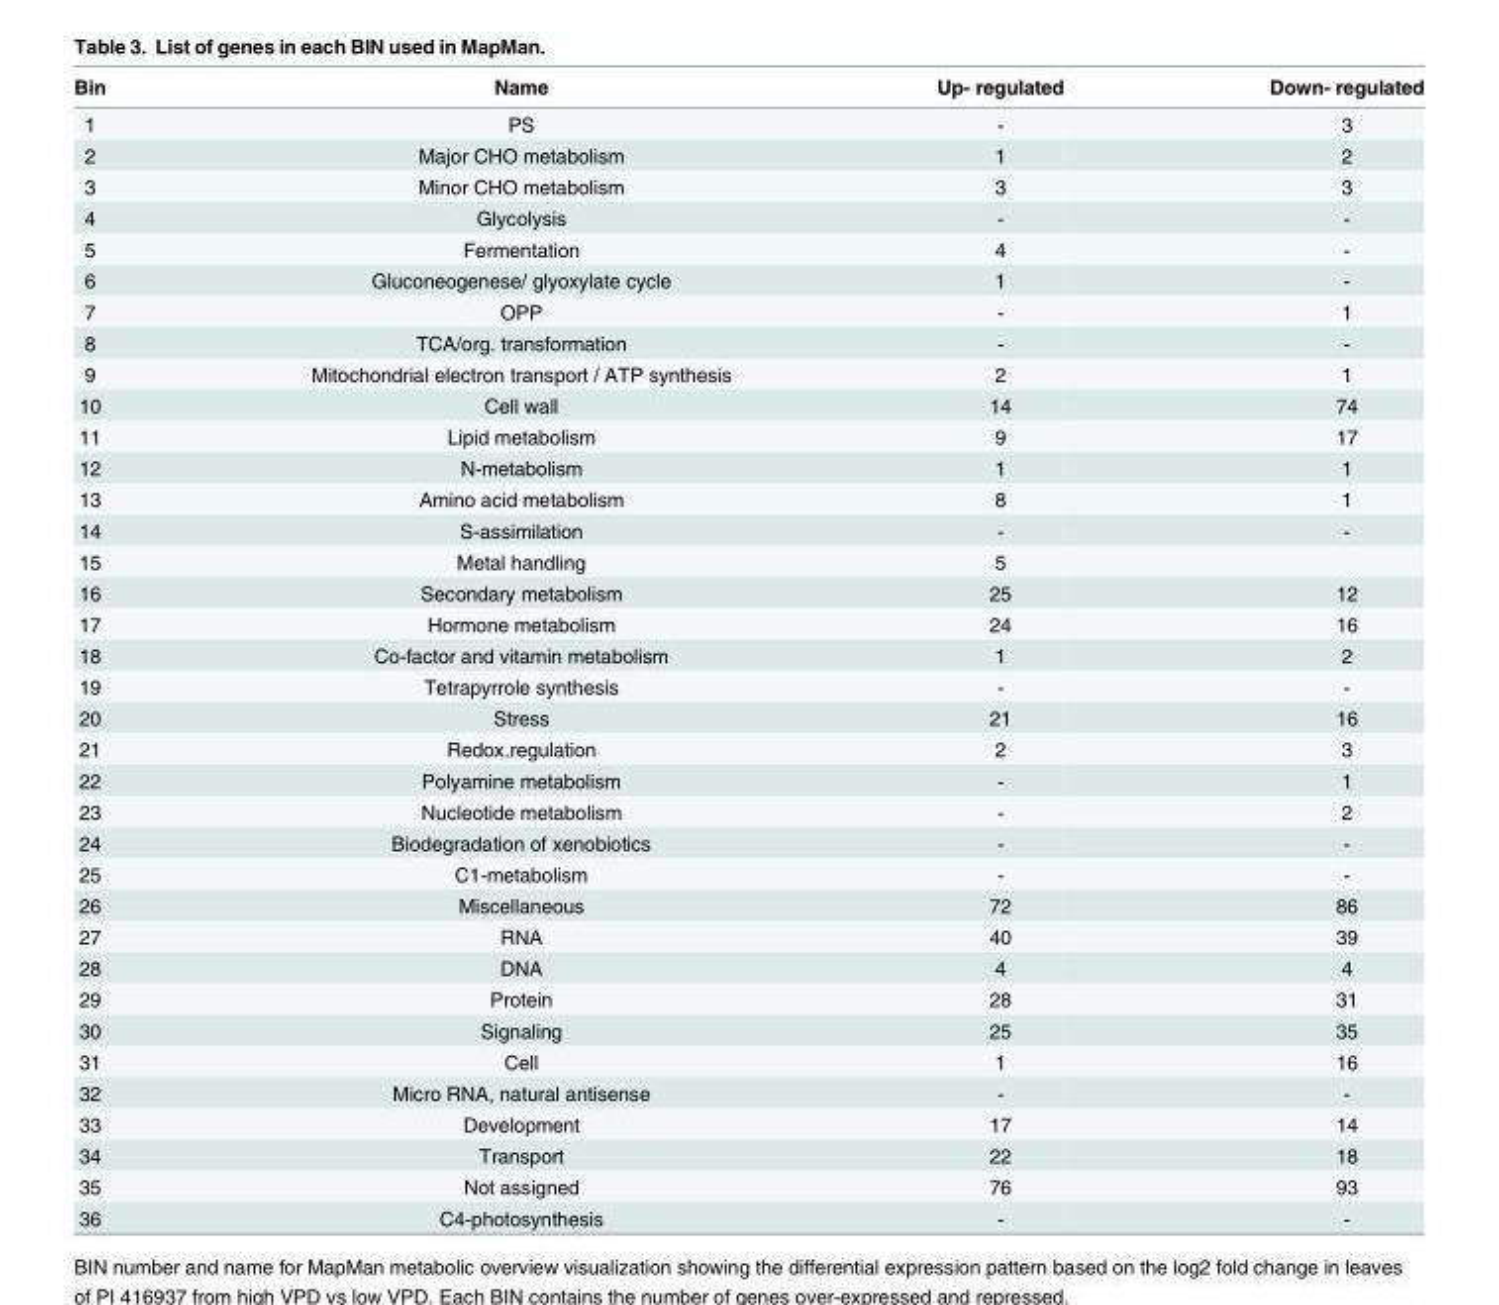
<table><thead><tr><td>Bin</td><td>Name</td><td>Up- regulated</td><td>Down- regulated</td></tr></thead><tbody><tr><td>1</td><td>PS</td><td>-</td><td>3</td></tr><tr><td>2</td><td>Major CHO metabolism</td><td>1</td><td>2</td></tr><tr><td>3</td><td>Minor CHO metabolism</td><td>3</td><td>3</td></tr><tr><td>4</td><td>Glycolysis</td><td>-</td><td>-</td></tr><tr><td>5</td><td>Fermentation</td><td>4</td><td>-</td></tr><tr><td>6</td><td>Gluconeogenese/ glyoxylate cycle</td><td>1</td><td>-</td></tr><tr><td>7</td><td>OPP</td><td>-</td><td>1</td></tr><tr><td>8</td><td>TCA/org. transformation</td><td>-</td><td>-</td></tr><tr><td>9</td><td>Mitochondrial electron transport / ATP synthesis</td><td>2</td><td>1</td></tr><tr><td>10</td><td>Cell wall</td><td>14</td><td>74</td></tr><tr><td>11</td><td>Lipid metabolism</td><td>9</td><td>17</td></tr><tr><td>12</td><td>N-metabolism</td><td>1</td><td>1</td></tr><tr><td>13</td><td>Amino acid metabolism</td><td>8</td><td>1</td></tr><tr><td>14</td><td>S-assimilation</td><td>-</td><td>-</td></tr><tr><td>15</td><td>Metal handling</td><td>5</td><td></td></tr><tr><td>16</td><td>Secondary metabolism</td><td>25</td><td>12</td></tr><tr><td>17</td><td>Hormone metabolism</td><td>24</td><td>16</td></tr><tr><td>18</td><td>Co-factor and vitamin metabolism</td><td>1</td><td>2</td></tr><tr><td>19</td><td>Tetrapyrrole synthesis</td><td>-</td><td>-</td></tr><tr><td>20</td><td>Stress</td><td>21</td><td>16</td></tr><tr><td>21</td><td>Redox.regulation</td><td>2</td><td>3</td></tr><tr><td>22</td><td>Polyamine metabolism</td><td>-</td><td>1</td></tr><tr><td>23</td><td>Nucleotide metabolism</td><td>-</td><td>2</td></tr><tr><td>24</td><td>Biodegradation of xenobiotics</td><td>-</td><td>-</td></tr><tr><td>25</td><td>C1-metabolism</td><td>-</td><td>-</td></tr><tr><td>26</td><td>Miscellaneous</td><td>72</td><td>86</td></tr><tr><td>27</td><td>RNA</td><td>40</td><td>39</td></tr><tr><td>28</td><td>DNA</td><td>4</td><td>4</td></tr><tr><td>29</td><td>Protein</td><td>28</td><td>31</td></tr><tr><td>30</td><td>Signaling</td><td>25</td><td>35</td></tr><tr><td>31</td><td>Cell</td><td>1</td><td>16</td></tr><tr><td>32</td><td>Micro RNA, natural antisense</td><td>-</td><td>-</td></tr><tr><td>33</td><td>Development</td><td>17</td><td>14</td></tr><tr><td>34</td><td>Transport</td><td>22</td><td>18</td></tr><tr><td>35</td><td>Not assigned</td><td>76</td><td>93</td></tr><tr><td>36</td><td>C4-photosynthesis</td><td>-</td><td>-</td></tr></tbody></table>